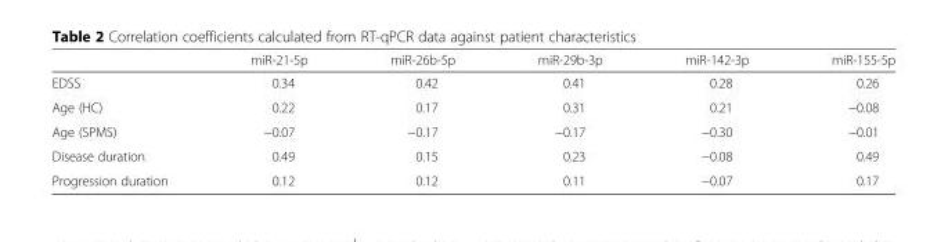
<table><thead><tr><td></td><td>miR-21-5p</td><td>miR-26b-5p</td><td>miR-29b-3p</td><td>miR-142-3p</td><td>miR-155-5p</td></tr></thead><tbody><tr><td>EDSS</td><td>0.34</td><td>0.42</td><td>0.41</td><td>0.28</td><td>0.26</td></tr><tr><td>Age (HC)</td><td>0.22</td><td>0.17</td><td>0.31</td><td>0.21</td><td>−0.08</td></tr><tr><td>Age (SPMS)</td><td>−0.07</td><td>−0.17</td><td>−0.17</td><td>−0.30</td><td>−0.01</td></tr><tr><td>Disease duration</td><td>0.49</td><td>0.15</td><td>0.23</td><td>−0.08</td><td>0.49</td></tr><tr><td>Progression duration</td><td>0.12</td><td>0.12</td><td>0.11</td><td>−0.07</td><td>0.17</td></tr></tbody></table>